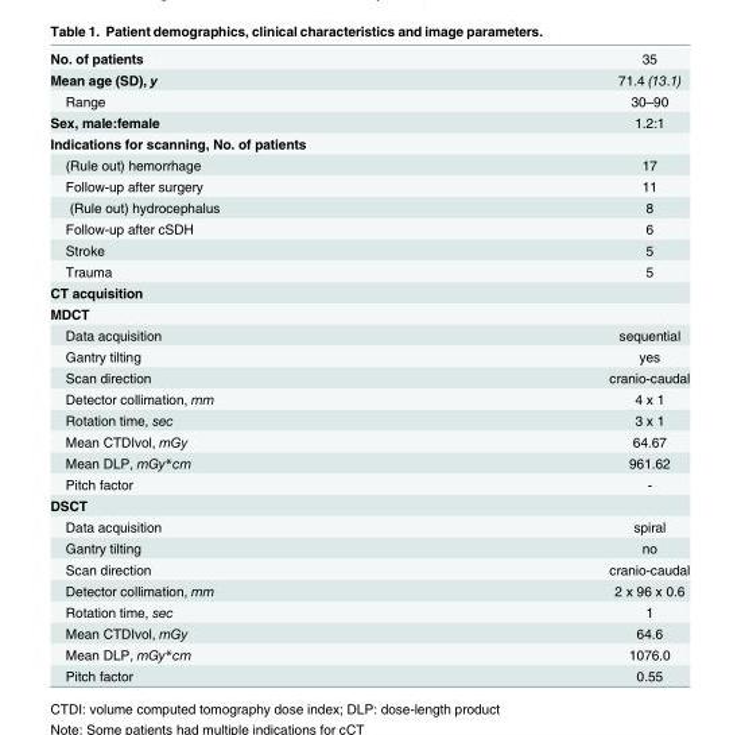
<table><tbody><tr><td>No. of patients</td><td>35</td></tr><tr><td>Mean age (SD), y</td><td>71.4 (13.1)</td></tr><tr><td>Range</td><td>30–90</td></tr><tr><td>Sex, male:female</td><td>1.2:1</td></tr><tr><td colspan="2">Indications for scanning, No. of patients</td></tr><tr><td>(Rule out) hemorrhage</td><td>17</td></tr><tr><td>Follow-up after surgery</td><td>11</td></tr><tr><td>(Rule out) hydrocephalus</td><td>8</td></tr><tr><td>Follow-up after cSDH</td><td>6</td></tr><tr><td>Stroke</td><td>5</td></tr><tr><td>Trauma</td><td>5</td></tr><tr><td colspan="2">CT acquisition</td></tr><tr><td colspan="2">MDCT</td></tr><tr><td>Data acquisition</td><td>sequential</td></tr><tr><td>Gantry tilting</td><td>yes</td></tr><tr><td>Scan direction</td><td>cranio-caudal</td></tr><tr><td>Detector collimation, mm</td><td>4 x 1</td></tr><tr><td>Rotation time, sec</td><td>3 x 1</td></tr><tr><td>Mean CTDIvol, mGy</td><td>64.67</td></tr><tr><td>Mean DLP, mGy*cm</td><td>961.62</td></tr><tr><td>Pitch factor</td><td>-</td></tr><tr><td colspan="2">DSCT</td></tr><tr><td>Data acquisition</td><td>spiral</td></tr><tr><td>Gantry tilting</td><td>no</td></tr><tr><td>Scan direction</td><td>cranio-caudal</td></tr><tr><td>Detector collimation, mm</td><td>2 x 96 x 0.6</td></tr><tr><td>Rotation time, sec</td><td>1</td></tr><tr><td>Mean CTDIvol, mGy</td><td>64.6</td></tr><tr><td>Mean DLP, mGy*cm</td><td>1076.0</td></tr><tr><td>Pitch factor</td><td>0.55</td></tr></tbody></table>